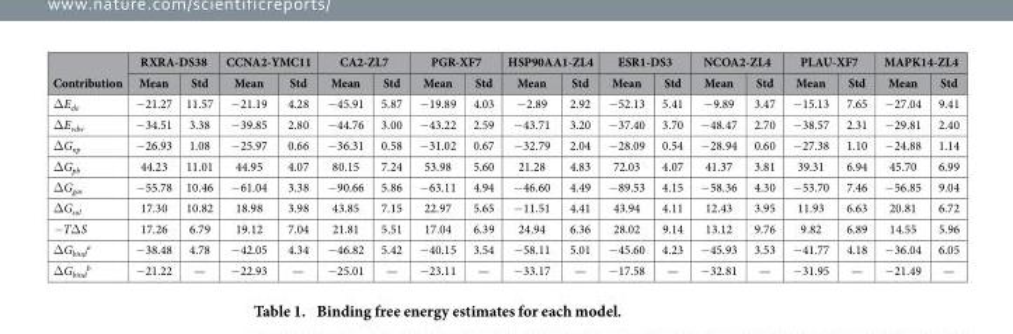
<table><thead><tr><td rowspan="2">Contribution</td><td colspan="2">RXRA-DS38</td><td colspan="2">CCNA2-YMC11</td><td colspan="2">CA2-ZL7</td><td colspan="2">PGR-XF7</td><td colspan="2">HSP90AA1-ZL4</td><td colspan="2">ESR1-DS3</td><td colspan="2">NCOA2-ZL4</td><td colspan="2">PLAU-XF7</td><td colspan="2">MAPK14-ZL4</td></tr><tr><td>Mean</td><td>Std</td><td>Mean</td><td>Std</td><td>Mean</td><td>Std</td><td>Mean</td><td>Std</td><td>Mean</td><td>Std</td><td>Mean</td><td>Std</td><td>Mean</td><td>Std</td><td>Mean</td><td>Std</td><td>Mean</td><td>Std</td></tr></thead><tbody><tr><td>Δ E<sub>ele</sub></td><td>− 21.27</td><td>11.57</td><td>− 21.19</td><td>4.28</td><td>− 45.91</td><td>5.87</td><td>− 19.89</td><td>4.03</td><td>− 2.89</td><td>2.92</td><td>− 52.13</td><td>5.41</td><td>− 9.89</td><td>3.47</td><td>− 15.13</td><td>7.65</td><td>− 27.04</td><td>9.41</td></tr><tr><td>Δ E<sub>vdw</sub></td><td>− 34.51</td><td>3.38</td><td>− 39.85</td><td>2.80</td><td>− 44.76</td><td>3.00</td><td>− 43.22</td><td>2.59</td><td>− 43.71</td><td>3.20</td><td>− 37.40</td><td>3.70</td><td>− 48.47</td><td>2.70</td><td>− 38.57</td><td>2.31</td><td>− 29.81</td><td>2.40</td></tr><tr><td>Δ G<sub>np</sub></td><td>− 26.93</td><td>1.08</td><td>− 25.97</td><td>0.66</td><td>− 36.31</td><td>0.58</td><td>− 31.02</td><td>0.67</td><td>− 32.79</td><td>2.04</td><td>− 28.09</td><td>0.54</td><td>− 28.94</td><td>0.60</td><td>− 27.38</td><td>1.10</td><td>− 24.88</td><td>1.14</td></tr><tr><td>Δ G<sub>pb</sub></td><td>44.23</td><td>11.01</td><td>44.95</td><td>4.07</td><td>80.15</td><td>7.24</td><td>53.98</td><td>5.60</td><td>21.28</td><td>4.83</td><td>72.03</td><td>4.07</td><td>41.37</td><td>3.81</td><td>39.31</td><td>6.94</td><td>45.70</td><td>6.99</td></tr><tr><td>Δ G<sub>gas</sub></td><td>− 55.78</td><td>10.46</td><td>− 61.04</td><td>3.38</td><td>− 90.66</td><td>5.86</td><td>− 63.11</td><td>4.94</td><td>− 46.60</td><td>4.49</td><td>− 89.53</td><td>4.15</td><td>− 58.36</td><td>4.30</td><td>− 53.70</td><td>7.46</td><td>− 56.85</td><td>9.04</td></tr><tr><td>Δ G<sub>sol</sub></td><td>17.30</td><td>10.82</td><td>18.98</td><td>3.98</td><td>43.85</td><td>7.15</td><td>22.97</td><td>5.65</td><td>− 11.51</td><td>4.41</td><td>43.94</td><td>4.11</td><td>12.43</td><td>3.95</td><td>11.93</td><td>6.63</td><td>20.81</td><td>6.72</td></tr><tr><td>−TΔ S</td><td>17.26</td><td>6.79</td><td>19.12</td><td>7.04</td><td>21.81</td><td>5.51</td><td>17.04</td><td>6.39</td><td>24.94</td><td>6.36</td><td>28.02</td><td>9.14</td><td>13.12</td><td>9.76</td><td>9.82</td><td>6.89</td><td>14.55</td><td>5.96</td></tr><tr><td>Δ G<sub>bind</sub> <sup>a</sup></td><td>− 38.48</td><td>4.78</td><td>− 42.05</td><td>4.34</td><td>− 46.82</td><td>5.42</td><td>− 40.15</td><td>3.54</td><td>− 58.11</td><td>5.01</td><td>− 45.60</td><td>4.23</td><td>− 45.93</td><td>3.53</td><td>− 41.77</td><td>4.18</td><td>− 36.04</td><td>6.05</td></tr><tr><td>Δ G<sub>bind</sub> <sup>b</sup></td><td>− 21.22</td><td>—</td><td>− 22.93</td><td>—</td><td>− 25.01</td><td>—</td><td>− 23.11</td><td>—</td><td>− 33.17</td><td>—</td><td>− 17.58</td><td>—</td><td>− 32.81</td><td>—</td><td>− 31.95</td><td>—</td><td>− 21.49</td><td>—</td></tr></tbody></table>